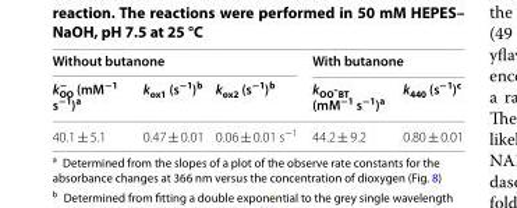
<table><thead><tr><td colspan="3">Without butanone</td><td colspan="2">With butanone</td></tr><tr><td>k− OO (mM−1 s−1)a</td><td>k<sub>ox1</sub> (s<sup>−1</sup>)<sup>b</sup></td><td>k<sub>ox2</sub> (s<sup>−1</sup>)<sup>b</sup></td><td>k<sub>OO</sub>‑<sub>BT</sub> (mM<sup>−1</sup> s<sup>−1</sup>)<sup>a</sup></td><td>k<sub>440</sub> (s<sup>−1</sup>)<sup>c</sup></td></tr></thead><tbody><tr><td>40.1 ± 5.1</td><td>0.47 ± 0.01</td><td>0.06 ± 0.01 s<sup>−1</sup></td><td>44.2 ± 9.2</td><td>0.80 ± 0.01</td></tr></tbody></table>